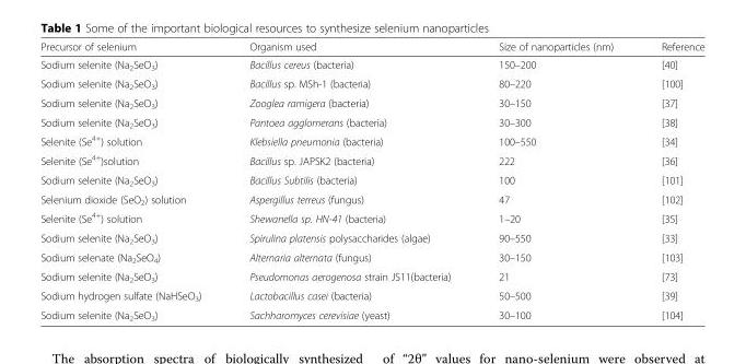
<table><thead><tr><td>Precursor of selenium</td><td>Organism used</td><td>Size of nanoparticles (nm)</td><td>Reference</td></tr></thead><tbody><tr><td>Sodium selenite (Na<sub>2</sub>SeO<sub>3</sub>)</td><td>Bacillus cereus (bacteria)</td><td>150–200</td><td>[40]</td></tr><tr><td>Sodium selenite (Na<sub>2</sub>SeO<sub>3</sub>)</td><td>Bacillus sp. MSh-1 (bacteria)</td><td>80–220</td><td>[100]</td></tr><tr><td>Sodium selenite (Na<sub>2</sub>SeO<sub>3</sub>)</td><td>Zooglea ramigera (bacteria)</td><td>30–150</td><td>[37]</td></tr><tr><td>Sodium selenite (Na<sub>2</sub>SeO<sub>3</sub>)</td><td>Pantoea agglomerans (bacteria)</td><td>30–300</td><td>[38]</td></tr><tr><td>Selenite (Se<sup>4+</sup>) solution</td><td>Klebsiella pneumonia (bacteria)</td><td>100–550</td><td>[34]</td></tr><tr><td>Selenite (Se<sup>4+</sup>)solution</td><td>Bacillus sp. JAPSK2 (bacteria)</td><td>222</td><td>[36]</td></tr><tr><td>Sodium selenite (Na<sub>2</sub>SeO<sub>3</sub>)</td><td>Bacillus Subtilis (bacteria)</td><td>100</td><td>[101]</td></tr><tr><td>Selenium dioxide (SeO<sub>2</sub>) solution</td><td>Aspergillus terreus (fungus)</td><td>47</td><td>[102]</td></tr><tr><td>Selenite (Se<sup>4+</sup>) solution</td><td>Shewanella sp. HN-41 (bacteria)</td><td>1–20</td><td>[35]</td></tr><tr><td>Sodium selenite (Na<sub>2</sub>SeO<sub>3</sub>)</td><td>Spirulina platensis polysaccharides (algae)</td><td>90–550</td><td>[33]</td></tr><tr><td>Sodium selenate (Na<sub>2</sub>SeO<sub>4</sub>)</td><td>Alternaria alternata (fungus)</td><td>30–150</td><td>[103]</td></tr><tr><td>Sodium selenite (Na<sub>2</sub>SeO<sub>3</sub>)</td><td>Pseudomonas aerogenosa strain JS11(bacteria)</td><td>21</td><td>[73]</td></tr><tr><td>Sodium hydrogen sulfate (NaHSeO<sub>3</sub>)</td><td>Lactobacillus casei (bacteria)</td><td>50–500</td><td>[39]</td></tr><tr><td>Sodium selenite (Na<sub>2</sub>SeO<sub>3</sub>)</td><td>Sachharomyces cerevisiae (yeast)</td><td>30–100</td><td>[104]</td></tr></tbody></table>